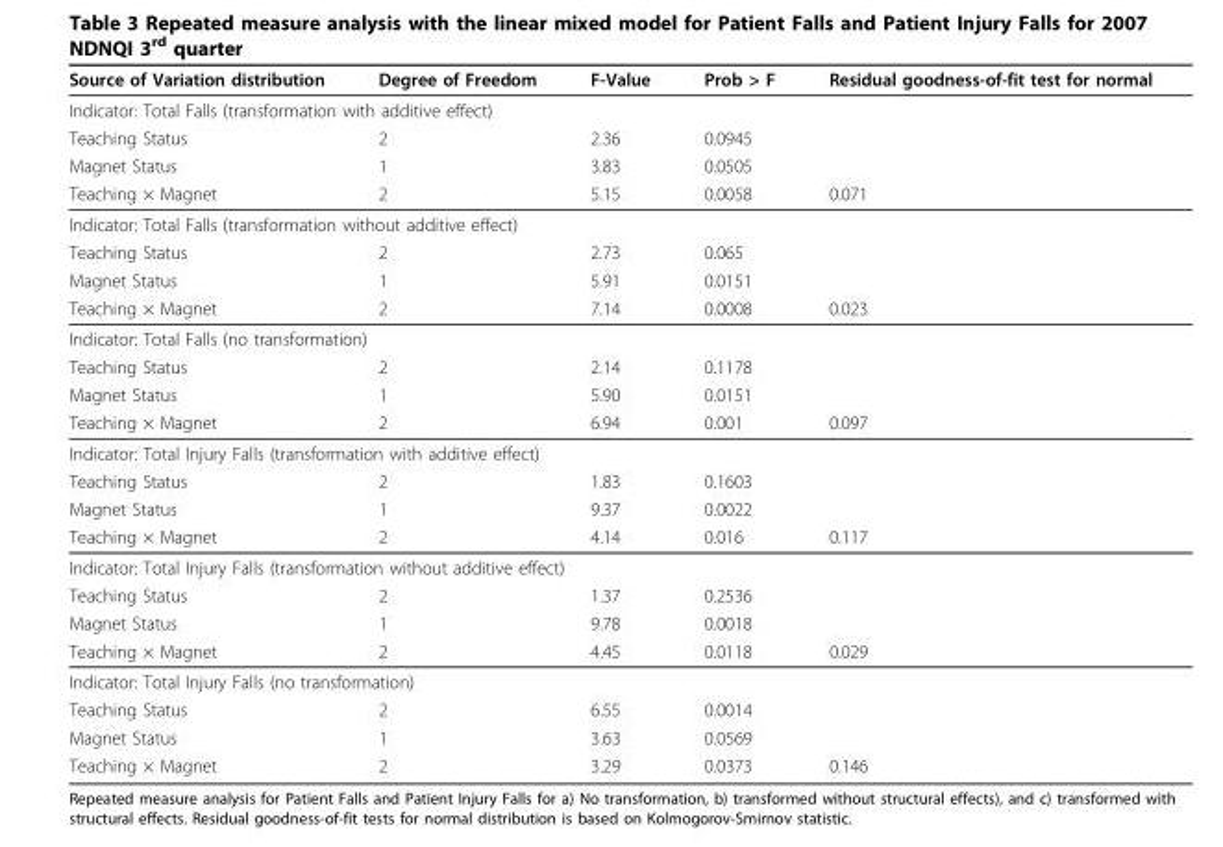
<table><thead><tr><td>Source of Variation distribution</td><td>Degree of Freedom</td><td>F-Value</td><td>Prob &gt; F</td><td>Residual goodness-of-fit test for normal</td></tr></thead><tbody><tr><td colspan="5">Indicator: Total Falls (transformation with additive effect)</td></tr><tr><td>Teaching Status</td><td>2</td><td>2.36</td><td>0.0945</td><td></td></tr><tr><td>Magnet Status</td><td>1</td><td>3.83</td><td>0.0505</td><td></td></tr><tr><td>Teaching × Magnet</td><td>2</td><td>5.15</td><td>0.0058</td><td>0.071</td></tr><tr><td colspan="5">Indicator: Total Falls (transformation without additive effect)</td></tr><tr><td>Teaching Status</td><td>2</td><td>2.73</td><td>0.065</td><td></td></tr><tr><td>Magnet Status</td><td>1</td><td>5.91</td><td>0.0151</td><td></td></tr><tr><td>Teaching × Magnet</td><td>2</td><td>7.14</td><td>0.0008</td><td>0.023</td></tr><tr><td colspan="5">Indicator: Total Falls (no transformation)</td></tr><tr><td>Teaching Status</td><td>2</td><td>2.14</td><td>0.1178</td><td></td></tr><tr><td>Magnet Status</td><td>1</td><td>5.90</td><td>0.0151</td><td></td></tr><tr><td>Teaching × Magnet</td><td>2</td><td>6.94</td><td>0.001</td><td>0.097</td></tr><tr><td colspan="5">Indicator: Total Injury Falls (transformation with additive effect)</td></tr><tr><td>Teaching Status</td><td>2</td><td>1.83</td><td>0.1603</td><td></td></tr><tr><td>Magnet Status</td><td>1</td><td>9.37</td><td>0.0022</td><td></td></tr><tr><td>Teaching × Magnet</td><td>2</td><td>4.14</td><td>0.016</td><td>0.117</td></tr><tr><td colspan="5">Indicator: Total Injury Falls (transformation without additive effect)</td></tr><tr><td>Teaching Status</td><td>2</td><td>1.37</td><td>0.2536</td><td></td></tr><tr><td>Magnet Status</td><td>1</td><td>9.78</td><td>0.0018</td><td></td></tr><tr><td>Teaching × Magnet</td><td>2</td><td>4.45</td><td>0.0118</td><td>0.029</td></tr><tr><td colspan="5">Indicator: Total Injury Falls (no transformation)</td></tr><tr><td>Teaching Status</td><td>2</td><td>6.55</td><td>0.0014</td><td></td></tr><tr><td>Magnet Status</td><td>1</td><td>3.63</td><td>0.0569</td><td></td></tr><tr><td>Teaching × Magnet</td><td>2</td><td>3.29</td><td>0.0373</td><td>0.146</td></tr></tbody></table>